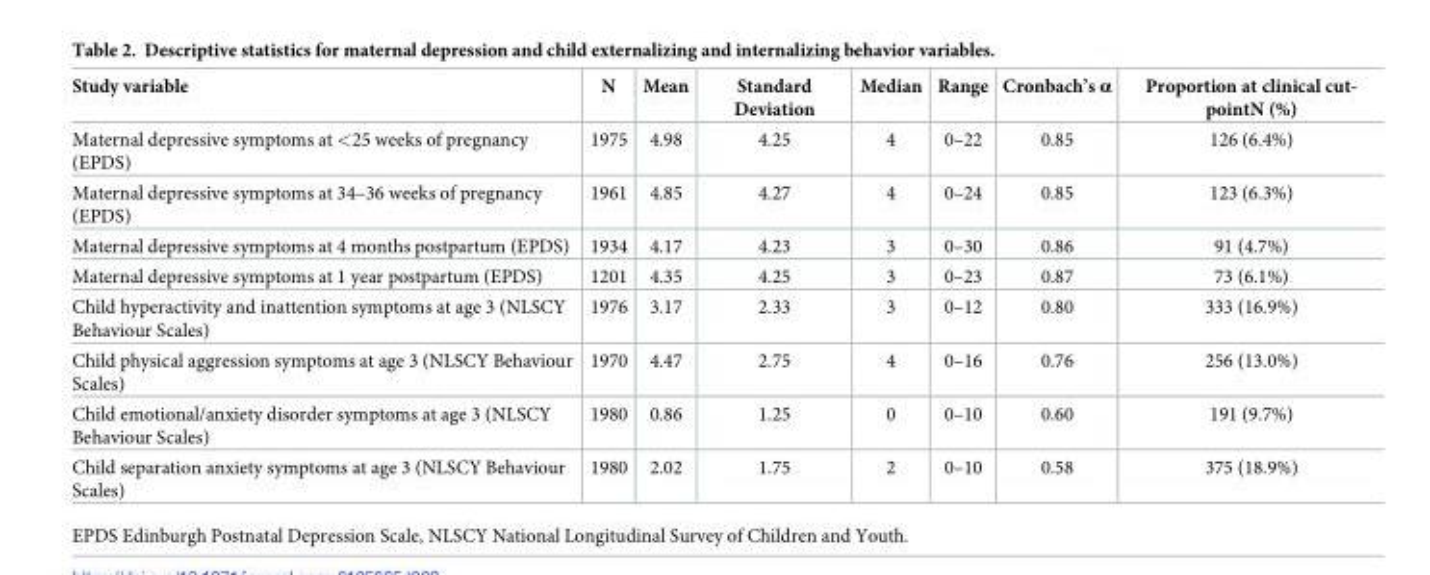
<table><thead><tr><td>Study variable</td><td>N</td><td>Mean</td><td>Standard Deviation</td><td>Median</td><td>Range</td><td>Cronbach’s α</td><td>Proportion at clinical cut- pointN (%)</td></tr></thead><tbody><tr><td>Maternal depressive symptoms at &lt;25 weeks of pregnancy (EPDS)</td><td>1975</td><td>4.98</td><td>4.25</td><td>4</td><td>0–22</td><td>0.85</td><td>126 (6.4%)</td></tr><tr><td>Maternal depressive symptoms at 34–36 weeks of pregnancy (EPDS)</td><td>1961</td><td>4.85</td><td>4.27</td><td>4</td><td>0–24</td><td>0.85</td><td>123 (6.3%)</td></tr><tr><td>Maternal depressive symptoms at 4 months postpartum (EPDS)</td><td>1934</td><td>4.17</td><td>4.23</td><td>3</td><td>0–30</td><td>0.86</td><td>91 (4.7%)</td></tr><tr><td>Maternal depressive symptoms at 1 year postpartum (EPDS)</td><td>1201</td><td>4.35</td><td>4.25</td><td>3</td><td>0–23</td><td>0.87</td><td>73 (6.1%)</td></tr><tr><td>Child hyperactivity and inattention symptoms at age 3 (NLSCY Behaviour Scales)</td><td>1976</td><td>3.17</td><td>2.33</td><td>3</td><td>0–12</td><td>0.80</td><td>333 (16.9%)</td></tr><tr><td>Child physical aggression symptoms at age 3 (NLSCY Behaviour Scales)</td><td>1970</td><td>4.47</td><td>2.75</td><td>4</td><td>0–16</td><td>0.76</td><td>256 (13.0%)</td></tr><tr><td>Child emotional/anxiety disorder symptoms at age 3 (NLSCY Behaviour Scales)</td><td>1980</td><td>0.86</td><td>1.25</td><td>0</td><td>0–10</td><td>0.60</td><td>191 (9.7%)</td></tr><tr><td>Child separation anxiety symptoms at age 3 (NLSCY Behaviour Scales)</td><td>1980</td><td>2.02</td><td>1.75</td><td>2</td><td>0–10</td><td>0.58</td><td>375 (18.9%)</td></tr></tbody></table>